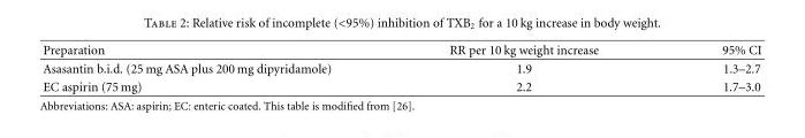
<table><thead><tr><td>Preparation</td><td>RR per 10 kg weight increase</td><td>95% CI</td></tr></thead><tbody><tr><td>Asasantin b.i.d. (25 mg ASA plus 200 mg dipyridamole)</td><td>1.9</td><td>1.3–2.7</td></tr><tr><td>EC aspirin (75 mg)</td><td>2.2</td><td>1.7–3.0</td></tr></tbody></table>